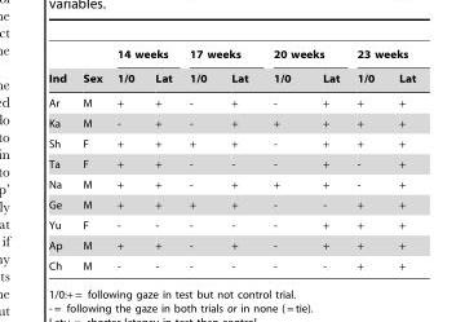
<table><thead><tr><td rowspan="2">Ind</td><td rowspan="2">Sex</td><td colspan="2">14 weeks</td><td colspan="2">17 weeks</td><td colspan="2">20 weeks</td><td colspan="2">23 weeks</td></tr><tr><td>1/0</td><td>Lat</td><td>1/0</td><td>Lat</td><td>1/0</td><td>Lat</td><td>1/0</td><td>Lat</td></tr></thead><tbody><tr><td>Ar</td><td>M</td><td>+</td><td>+</td><td>-</td><td>+</td><td>-</td><td>+</td><td>+</td><td>+</td></tr><tr><td>Ka</td><td>M</td><td>-</td><td>+</td><td>-</td><td>+</td><td>+</td><td>+</td><td>+</td><td>+</td></tr><tr><td>Sh</td><td>F</td><td>+</td><td>+</td><td>+</td><td>+</td><td>-</td><td>+</td><td>+</td><td>+</td></tr><tr><td>Ta</td><td>F</td><td>+</td><td>+</td><td>-</td><td>-</td><td>-</td><td>+</td><td>-</td><td>+</td></tr><tr><td>Na</td><td>M</td><td>+</td><td>+</td><td>-</td><td>+</td><td>+</td><td>+</td><td>-</td><td>+</td></tr><tr><td>Ge</td><td>M</td><td>+</td><td>+</td><td>+</td><td>+</td><td>-</td><td>-</td><td>+</td><td>+</td></tr><tr><td>Yu</td><td>F</td><td>-</td><td>-</td><td>-</td><td>-</td><td>-</td><td>+</td><td>+</td><td>+</td></tr><tr><td>Ap</td><td>M</td><td>+</td><td>+</td><td>-</td><td>+</td><td>-</td><td>+</td><td>+</td><td>+</td></tr><tr><td>Ch</td><td>M</td><td>-</td><td>-</td><td>-</td><td>-</td><td>-</td><td>-</td><td>+</td><td>+</td></tr></tbody></table>